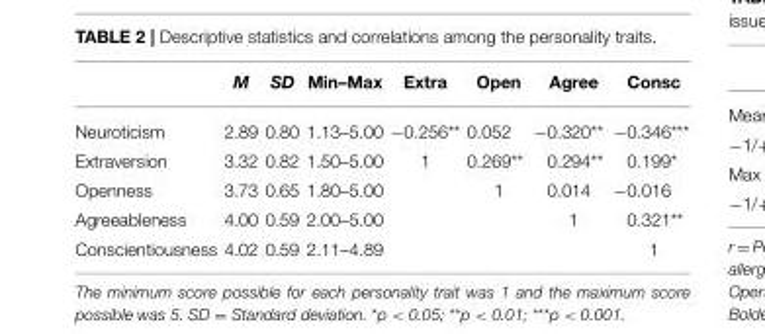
<table><thead><tr><td></td><td>M</td><td>SD</td><td>Min–Max</td><td>Extra</td><td>Open</td><td>Agree</td><td>Consc</td></tr></thead><tbody><tr><td>Neuroticism</td><td>2.89</td><td>0.80</td><td>1.13–5.00</td><td>−0.256**</td><td>0.052</td><td>−0.320**</td><td>−0.346***</td></tr><tr><td>Extraversion</td><td>3.32</td><td>0.82</td><td>1.50–5.00</td><td>1</td><td>0.269**</td><td>0.294**</td><td>0.199*</td></tr><tr><td>Openness</td><td>3.73</td><td>0.65</td><td>1.80–5.00</td><td></td><td>1</td><td>0.014</td><td>−0.016</td></tr><tr><td>Agreeableness</td><td>4.00</td><td>0.59</td><td>2.00–5.00</td><td></td><td></td><td>1</td><td>0.321**</td></tr><tr><td>Conscientiousness</td><td>4.02</td><td>0.59</td><td>2.11–4.89</td><td></td><td></td><td></td><td>1</td></tr></tbody></table>